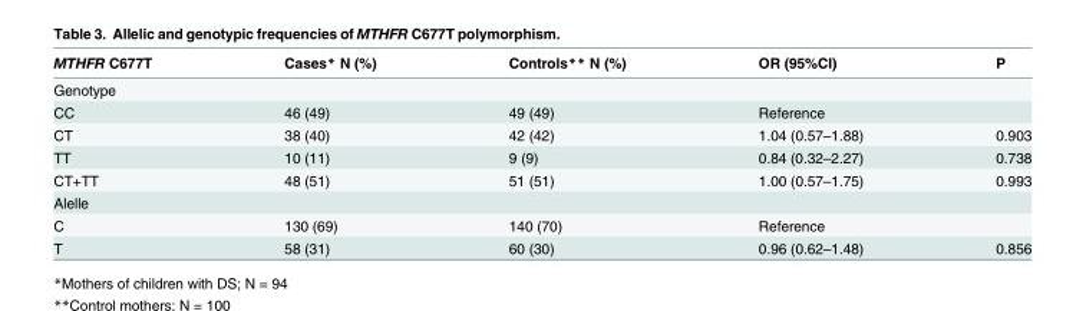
<table><thead><tr><td>MTHFR C677T</td><td>Cases* N (%)</td><td>Controls** N (%)</td><td>OR (95%CI)</td><td>P</td></tr></thead><tbody><tr><td colspan="5">Genotype</td></tr><tr><td>CC</td><td>46 (49)</td><td>49 (49)</td><td>Reference</td><td></td></tr><tr><td>CT</td><td>38 (40)</td><td>42 (42)</td><td>1.04 (0.57–1.88)</td><td>0.903</td></tr><tr><td>TT</td><td>10 (11)</td><td>9 (9)</td><td>0.84 (0.32–2.27)</td><td>0.738</td></tr><tr><td>CT+TT</td><td>48 (51)</td><td>51 (51)</td><td>1.00 (0.57–1.75)</td><td>0.993</td></tr><tr><td colspan="5">Alelle</td></tr><tr><td>C</td><td>130 (69)</td><td>140 (70)</td><td>Reference</td><td></td></tr><tr><td>T</td><td>58 (31)</td><td>60 (30)</td><td>0.96 (0.62–1.48)</td><td>0.856</td></tr></tbody></table>